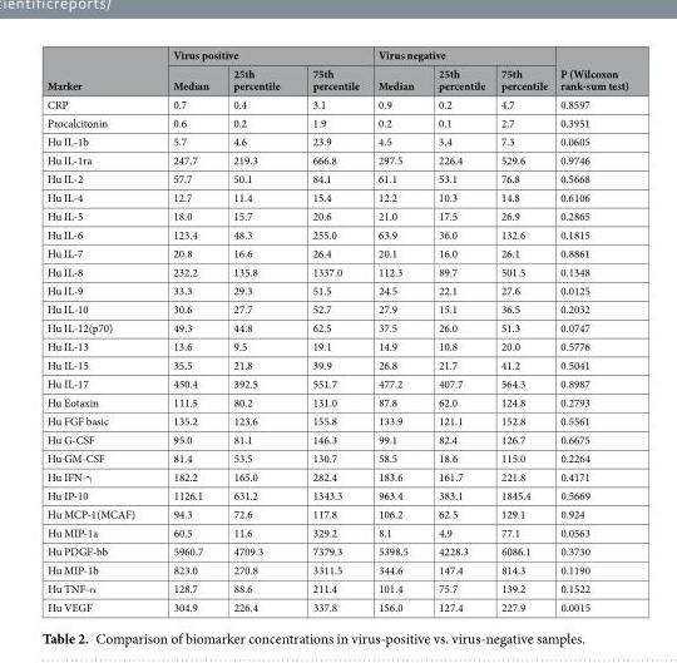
<table><thead><tr><td rowspan="2">Marker</td><td colspan="3">Virus positive</td><td colspan="3">Virus negative</td><td rowspan="2">P (Wilcoxon rank-sum test)</td></tr><tr><td>Median</td><td>25th percentile</td><td>75th percentile</td><td>Median</td><td>25th percentile</td><td>75th percentile</td></tr></thead><tbody><tr><td>CRP</td><td>0.7</td><td>0.4</td><td>3.1</td><td>0.9</td><td>0.2</td><td>4.7</td><td>0.8597</td></tr><tr><td>Procalcitonin</td><td>0.6</td><td>0.2</td><td>1.9</td><td>0.2</td><td>0.1</td><td>2.7</td><td>0.3951</td></tr><tr><td>Hu IL-1b</td><td>5.7</td><td>4.6</td><td>23.9</td><td>4.5</td><td>3.4</td><td>7.3</td><td>0.0605</td></tr><tr><td>Hu IL-1ra</td><td>247.7</td><td>219.3</td><td>666.8</td><td>297.5</td><td>226.4</td><td>529.6</td><td>0.9746</td></tr><tr><td>Hu IL-2</td><td>57.7</td><td>50.1</td><td>84.1</td><td>61.1</td><td>53.1</td><td>76.8</td><td>0.5668</td></tr><tr><td>Hu IL-4</td><td>12.7</td><td>11.4</td><td>15.4</td><td>12.2</td><td>10.3</td><td>14.8</td><td>0.6106</td></tr><tr><td>Hu IL-5</td><td>18.0</td><td>15.7</td><td>20.6</td><td>21.0</td><td>17.5</td><td>26.9</td><td>0.2865</td></tr><tr><td>Hu IL-6</td><td>123.4</td><td>48.3</td><td>255.0</td><td>63.9</td><td>36.0</td><td>132.6</td><td>0.1815</td></tr><tr><td>Hu IL-7</td><td>20.8</td><td>16.6</td><td>26.4</td><td>20.1</td><td>16.0</td><td>26.1</td><td>0.8861</td></tr><tr><td>Hu IL-8</td><td>232.2</td><td>135.8</td><td>1337.0</td><td>112.3</td><td>89.7</td><td>501.5</td><td>0.1348</td></tr><tr><td>Hu IL-9</td><td>33.3</td><td>29.3</td><td>51.5</td><td>24.5</td><td>22.1</td><td>27.6</td><td>0.0125</td></tr><tr><td>Hu IL-10</td><td>30.6</td><td>27.7</td><td>52.7</td><td>27.9</td><td>15.1</td><td>36.5</td><td>0.2032</td></tr><tr><td>Hu IL-12(p70)</td><td>49.3</td><td>44.8</td><td>62.5</td><td>37.5</td><td>26.0</td><td>51.3</td><td>0.0747</td></tr><tr><td>Hu IL-13</td><td>13.6</td><td>9.5</td><td>19.1</td><td>14.9</td><td>10.8</td><td>20.0</td><td>0.5776</td></tr><tr><td>Hu IL-15</td><td>35.5</td><td>21.8</td><td>39.9</td><td>26.8</td><td>21.7</td><td>41.2</td><td>0.5041</td></tr><tr><td>Hu IL-17</td><td>450.4</td><td>392.5</td><td>551.7</td><td>477.2</td><td>407.7</td><td>564.3</td><td>0.8987</td></tr><tr><td>Hu Eotaxin</td><td>111.5</td><td>80.2</td><td>131.0</td><td>87.8</td><td>62.0</td><td>124.8</td><td>0.2793</td></tr><tr><td>Hu FGF basic</td><td>135.2</td><td>123.6</td><td>155.8</td><td>133.9</td><td>121.1</td><td>152.8</td><td>0.5561</td></tr><tr><td>Hu G-CSF</td><td>95.0</td><td>81.1</td><td>146.3</td><td>99.1</td><td>82.4</td><td>126.7</td><td>0.6675</td></tr><tr><td>Hu GM-CSF</td><td>81.4</td><td>53.5</td><td>130.7</td><td>58.5</td><td>18.6</td><td>115.0</td><td>0.2264</td></tr><tr><td>Hu IFN-γ</td><td>182.2</td><td>165.0</td><td>282.4</td><td>183.6</td><td>161.7</td><td>221.8</td><td>0.4171</td></tr><tr><td>Hu IP-10</td><td>1126.1</td><td>631.2</td><td>1343.3</td><td>963.4</td><td>383.1</td><td>1845.4</td><td>0.5669</td></tr><tr><td>Hu MCP-1(MCAF)</td><td>94.3</td><td>72.6</td><td>117.8</td><td>106.2</td><td>62.5</td><td>129.1</td><td>0.924</td></tr><tr><td>Hu MIP-1a</td><td>60.5</td><td>11.6</td><td>329.2</td><td>8.1</td><td>4.9</td><td>77.1</td><td>0.0563</td></tr><tr><td>Hu PDGF-bb</td><td>5960.7</td><td>4709.3</td><td>7379.3</td><td>5398.5</td><td>4228.3</td><td>6086.1</td><td>0.3730</td></tr><tr><td>Hu MIP-1b</td><td>823.0</td><td>270.8</td><td>3311.5</td><td>344.6</td><td>147.4</td><td>814.3</td><td>0.1190</td></tr><tr><td>Hu TNF-α</td><td>128.7</td><td>88.6</td><td>211.4</td><td>101.4</td><td>75.7</td><td>139.2</td><td>0.1522</td></tr><tr><td>Hu VEGF</td><td>304.9</td><td>226.4</td><td>337.8</td><td>156.0</td><td>127.4</td><td>227.9</td><td>0.0015</td></tr></tbody></table>